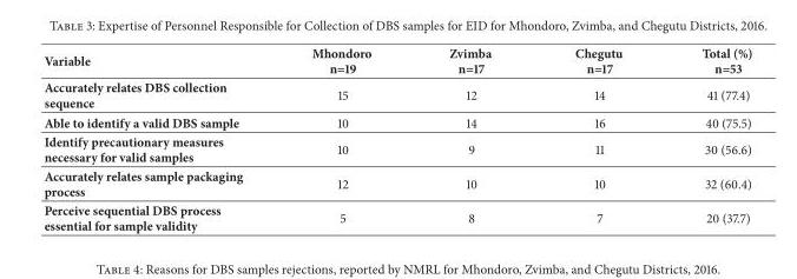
<table><thead><tr><td>Variable</td><td>Mhondoro n=19</td><td>Zvimba n=17</td><td>Chegutu n=17</td><td>Total (%) n=53</td></tr></thead><tbody><tr><td>Accurately relates DBS collection sequence</td><td>15</td><td>12</td><td>14</td><td>41 (77.4)</td></tr><tr><td>Able to identify a valid DBS sample</td><td>10</td><td>14</td><td>16</td><td>40 (75.5)</td></tr><tr><td>Identify precautionary measures necessary for valid samples</td><td>10</td><td>9</td><td>11</td><td>30 (56.6)</td></tr><tr><td>Accurately relates sample packaging process</td><td>12</td><td>10</td><td>10</td><td>32 (60.4)</td></tr><tr><td>Perceive sequential DBS process essential for sample validity</td><td>5</td><td>8</td><td>7</td><td>20 (37.7)</td></tr></tbody></table>